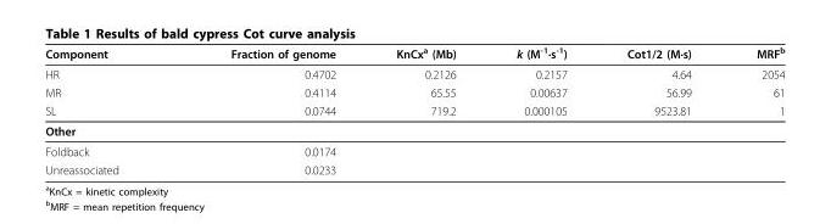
<table><thead><tr><td>Component</td><td>Fraction of genome</td><td>KnCx<sup>a</sup> (Mb)</td><td>k (M<sup>-1</sup>·s<sup>-1</sup>)</td><td>Cot1/2 (M·s)</td><td>MRF<sup>b</sup></td></tr></thead><tbody><tr><td>HR</td><td>0.4702</td><td>0.2126</td><td>0.2157</td><td>4.64</td><td>2054</td></tr><tr><td>MR</td><td>0.4114</td><td>65.55</td><td>0.00637</td><td>56.99</td><td>61</td></tr><tr><td>SL</td><td>0.0744</td><td>719.2</td><td>0.000105</td><td>9523.81</td><td>1</td></tr><tr><td colspan="6">Other</td></tr><tr><td>Foldback</td><td>0.0174</td><td></td><td></td><td></td><td></td></tr><tr><td>Unreassociated</td><td>0.0233</td><td></td><td></td><td></td><td></td></tr></tbody></table>